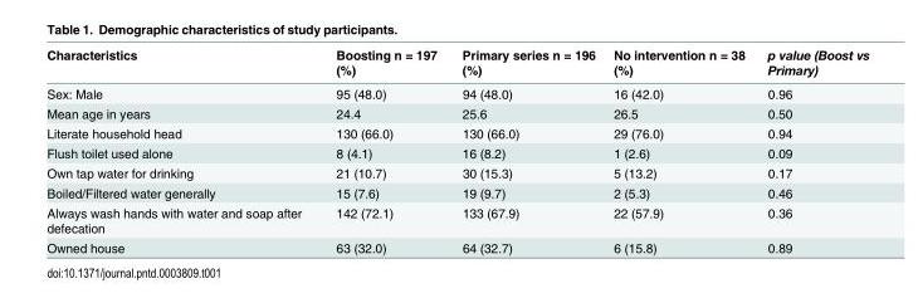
<table><thead><tr><td>Characteristics</td><td>Boosting n = 197 (%)</td><td>Primary series n = 196 (%)</td><td>No intervention n = 38 (%)</td><td>p value (Boost vs Primary)</td></tr></thead><tbody><tr><td>Sex: Male</td><td>95 (48.0)</td><td>94 (48.0)</td><td>16 (42.0)</td><td>0.96</td></tr><tr><td>Mean age in years</td><td>24.4</td><td>25.6</td><td>26.5</td><td>0.50</td></tr><tr><td>Literate household head</td><td>130 (66.0)</td><td>130 (66.0)</td><td>29 (76.0)</td><td>0.94</td></tr><tr><td>Flush toilet used alone</td><td>8 (4.1)</td><td>16 (8.2)</td><td>1 (2.6)</td><td>0.09</td></tr><tr><td>Own tap water for drinking</td><td>21 (10.7)</td><td>30 (15.3)</td><td>5 (13.2)</td><td>0.17</td></tr><tr><td>Boiled/Filtered water generally</td><td>15 (7.6)</td><td>19 (9.7)</td><td>2 (5.3)</td><td>0.46</td></tr><tr><td>Always wash hands with water and soap after defecation</td><td>142 (72.1)</td><td>133 (67.9)</td><td>22 (57.9)</td><td>0.36</td></tr><tr><td>Owned house</td><td>63 (32.0)</td><td>64 (32.7)</td><td>6 (15.8)</td><td>0.89</td></tr></tbody></table>